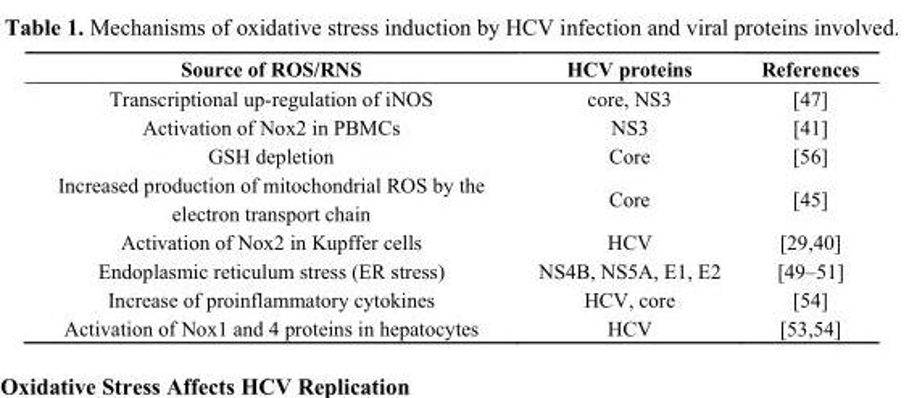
<table><thead><tr><td>Source of ROS/RNS</td><td>HCV proteins</td><td>References</td></tr></thead><tbody><tr><td>Transcriptional up-regulation of iNOS</td><td>core, NS3</td><td>[47]</td></tr><tr><td>Activation of Nox2 in PBMCs</td><td>NS3</td><td>[41]</td></tr><tr><td>GSH depletion</td><td>Core</td><td>[56]</td></tr><tr><td>Increased production of mitochondrial ROS by the electron transport chain</td><td>Core</td><td>[45]</td></tr><tr><td>Activation of Nox2 in Kupffer cells</td><td>HCV</td><td>[29,40]</td></tr><tr><td>Endoplasmic reticulum stress (ER stress)</td><td>NS4B, NS5A, E1, E2</td><td>[49–51]</td></tr><tr><td>Increase of proinflammatory cytokines</td><td>HCV, core</td><td>[54]</td></tr><tr><td>Activation of Nox1 and 4 proteins in hepatocytes</td><td>HCV</td><td>[53,54]</td></tr></tbody></table>